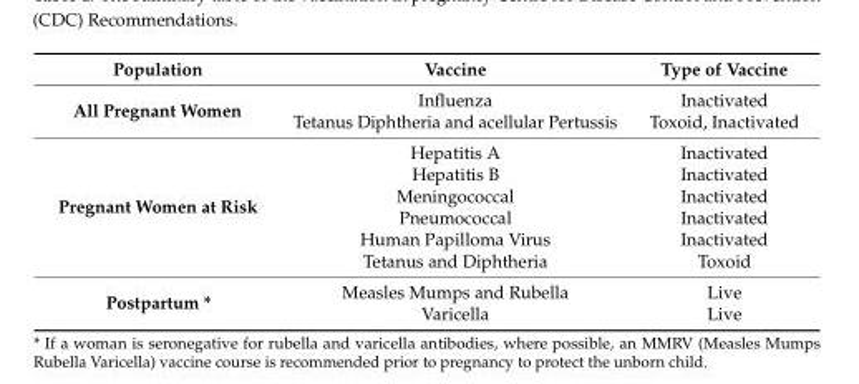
<table><thead><tr><td>Population</td><td>Vaccine</td><td>Type of Vaccine</td></tr></thead><tbody><tr><td rowspan="2">All Pregnant Women</td><td>Influenza</td><td>Inactivated</td></tr><tr><td>Tetanus Diphtheria and acellular Pertussis</td><td>Toxoid, Inactivated</td></tr><tr><td rowspan="6">Pregnant Women at Risk</td><td>Hepatitis A</td><td>Inactivated</td></tr><tr><td>Hepatitis B</td><td>Inactivated</td></tr><tr><td>Meningococcal</td><td>Inactivated</td></tr><tr><td>Pneumococcal</td><td>Inactivated</td></tr><tr><td>Human Papilloma Virus</td><td>Inactivated</td></tr><tr><td>Tetanus and Diphtheria</td><td>Toxoid</td></tr><tr><td rowspan="2">Postpartum *</td><td>Measles Mumps and Rubella</td><td>Live</td></tr><tr><td>Varicella</td><td>Live</td></tr></tbody></table>